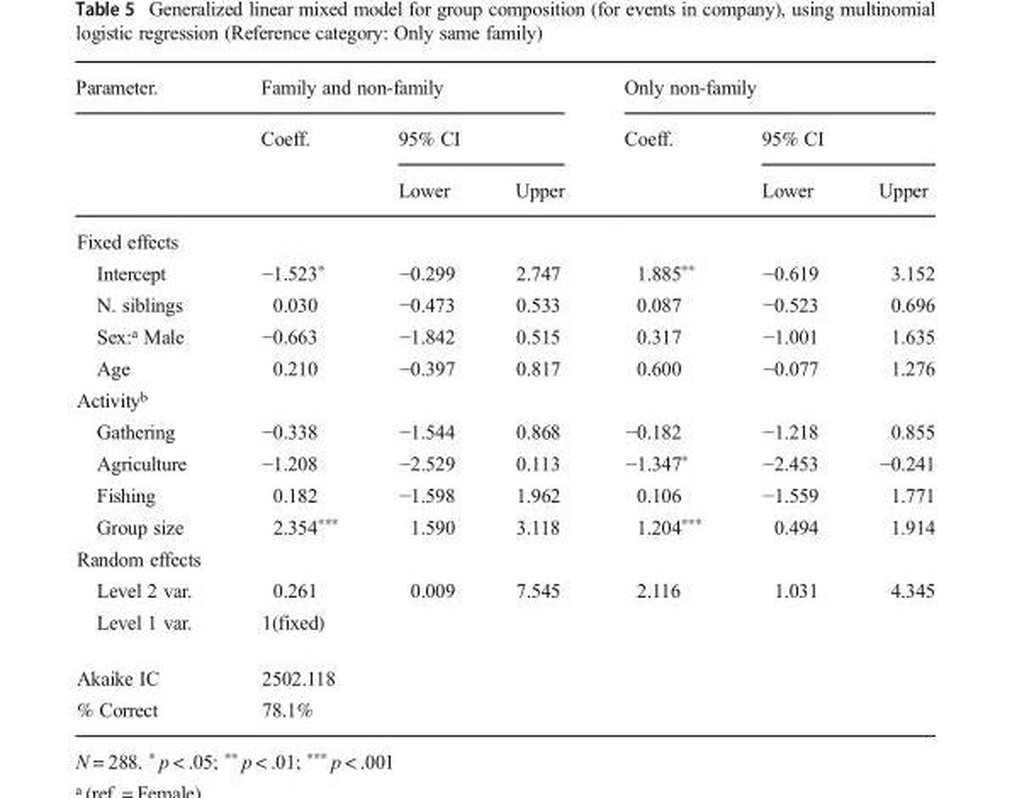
<table><thead><tr><td rowspan="3">Parameter.</td><td colspan="3">Family and non-family</td><td colspan="3">Only non-family</td></tr><tr><td rowspan="2">Coeff.</td><td colspan="2">95% CI</td><td rowspan="2">Coeff.</td><td colspan="2">95% CI</td></tr><tr><td>Lower</td><td>Upper</td><td>Lower</td><td>Upper</td></tr></thead><tbody><tr><td colspan="7">Fixed effects</td></tr><tr><td>Intercept</td><td>−1.523*</td><td>−0.299</td><td>2.747</td><td>1.885**</td><td>−0.619</td><td>3.152</td></tr><tr><td>N. siblings</td><td>0.030</td><td>−0.473</td><td>0.533</td><td>0.087</td><td>−0.523</td><td>0.696</td></tr><tr><td>Sex:<sup>a</sup> Male</td><td>−0.663</td><td>−1.842</td><td>0.515</td><td>0.317</td><td>−1.001</td><td>1.635</td></tr><tr><td>Age</td><td>0.210</td><td>−0.397</td><td>0.817</td><td>0.600</td><td>−0.077</td><td>1.276</td></tr><tr><td colspan="7">Activity<sup>b</sup></td></tr><tr><td>Gathering</td><td>−0.338</td><td>−1.544</td><td>0.868</td><td>−0.182</td><td>−1.218</td><td>0.855</td></tr><tr><td>Agriculture</td><td>−1.208</td><td>−2.529</td><td>0.113</td><td>−1.347*</td><td>−2.453</td><td>−0.241</td></tr><tr><td>Fishing</td><td>0.182</td><td>−1.598</td><td>1.962</td><td>0.106</td><td>−1.559</td><td>1.771</td></tr><tr><td>Group size</td><td>2.354***</td><td>1.590</td><td>3.118</td><td>1.204***</td><td>0.494</td><td>1.914</td></tr><tr><td colspan="7">Random effects</td></tr><tr><td>Level 2 var.</td><td>0.261</td><td>0.009</td><td>7.545</td><td>2.116</td><td>1.031</td><td>4.345</td></tr><tr><td>Level 1 var.</td><td colspan="6">1(fixed)</td></tr><tr><td>Akaike IC</td><td colspan="6">2502.118</td></tr><tr><td>% Correct</td><td colspan="6">78.1%</td></tr></tbody></table>